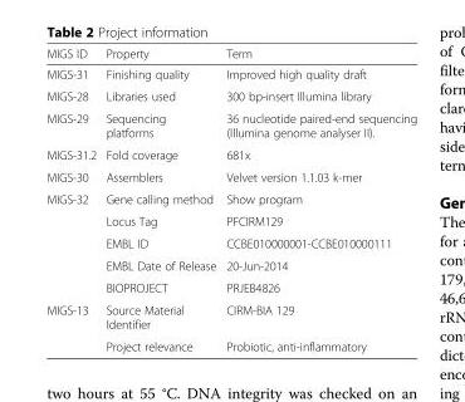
<table><thead><tr><td>MIGS ID</td><td>Property</td><td>Term</td></tr></thead><tbody><tr><td>MIGS-31</td><td>Finishing quality</td><td>Improved high quality draft</td></tr><tr><td>MIGS-28</td><td>Libraries used</td><td>300 bp-insert Illumina library</td></tr><tr><td>MIGS-29</td><td>Sequencing platforms</td><td>36 nucleotide paired-end sequencing (Illumina genome analyser II).</td></tr><tr><td>MIGS-31.2</td><td>Fold coverage</td><td>681x</td></tr><tr><td>MIGS-30</td><td>Assemblers</td><td>Velvet version 1.1.03 k-mer</td></tr><tr><td rowspan="5">MIGS-32</td><td>Gene calling method</td><td>Show program</td></tr><tr><td>Locus Tag</td><td>PFCIRM129</td></tr><tr><td>EMBL ID</td><td>CCBE010000001-CCBE010000111</td></tr><tr><td>EMBL Date of Release</td><td>20-Jun-2014</td></tr><tr><td>BIOPROJECT</td><td>PRJEB4826</td></tr><tr><td rowspan="2">MIGS-13</td><td>Source Material Identifier</td><td>CIRM-BIA 129</td></tr><tr><td>Project relevance</td><td>Probiotic, anti-inflammatory</td></tr></tbody></table>